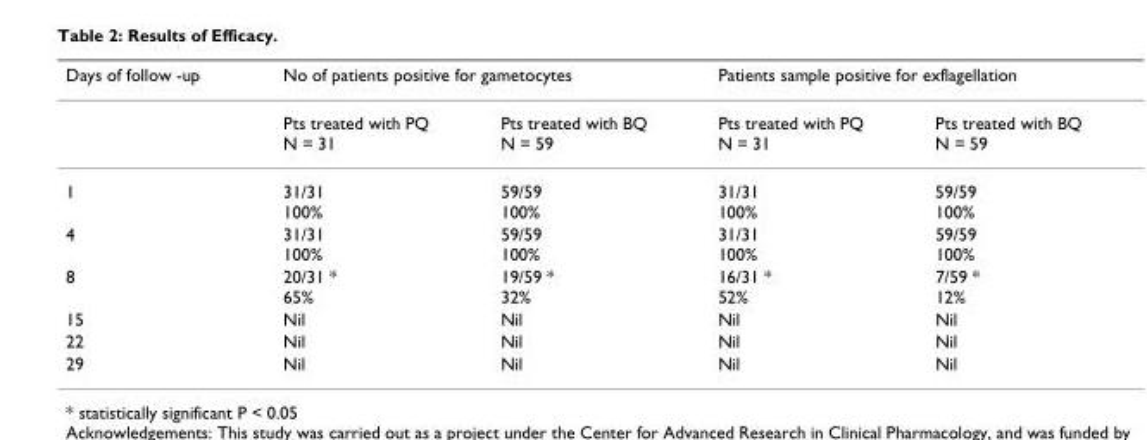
<table><thead><tr><td rowspan="2">Days of follow -up</td><td colspan="2">No of patients positive for gametocytes</td><td colspan="2">Patients sample positive for exflagellation</td></tr><tr><td>Pts treated with PQ N = 31</td><td>Pts treated with BQ N = 59</td><td>Pts treated with PQ N = 31</td><td>Pts treated with BQ N = 59</td></tr></thead><tbody><tr><td>1</td><td>31/31 100%</td><td>59/59 100%</td><td>31/31 100%</td><td>59/59 100%</td></tr><tr><td>4</td><td>31/31 100%</td><td>59/59 100%</td><td>31/31 100%</td><td>59/59 100%</td></tr><tr><td>8</td><td>20/31 * 65%</td><td>19/59 * 32%</td><td>16/31 * 52%</td><td>7/59 * 12%</td></tr><tr><td>15</td><td>Nil</td><td>Nil</td><td>Nil</td><td>Nil</td></tr><tr><td>22</td><td>Nil</td><td>Nil</td><td>Nil</td><td>Nil</td></tr><tr><td>29</td><td>Nil</td><td>Nil</td><td>Nil</td><td>Nil</td></tr></tbody></table>